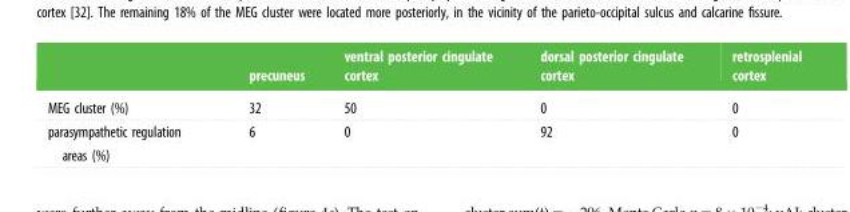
<table><thead><tr><td></td><td>precuneus</td><td>ventral posterior cingulate cortex</td><td>dorsal posterior cingulate cortex</td><td>retrosplenial cortex</td></tr></thead><tbody><tr><td>MEG cluster (%)</td><td>32</td><td>50</td><td>0</td><td>0</td></tr><tr><td>parasympathetic regulation areas (%)</td><td>6</td><td>0</td><td>92</td><td>0</td></tr></tbody></table>